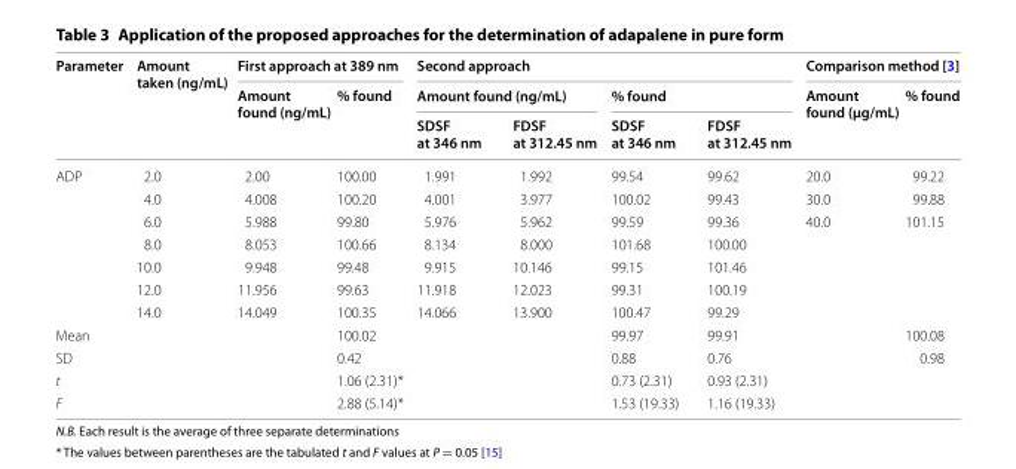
<table><thead><tr><td rowspan="3">Parameter</td><td rowspan="3">Amount taken (ng/mL)</td><td colspan="2">First approach at 389 nm</td><td colspan="4">Second approach</td><td colspan="2">Comparison method [3]</td></tr><tr><td rowspan="2">Amount found (ng/mL)</td><td rowspan="2">% found</td><td colspan="2">Amount found (ng/mL)</td><td colspan="2">% found</td><td rowspan="2">Amount found (µg/mL)</td><td rowspan="2">% found</td></tr><tr><td>SDSF at 346 nm</td><td>FDSF at 312.45 nm</td><td>SDSF at 346 nm</td><td>FDSF at 312.45 nm</td></tr></thead><tbody><tr><td rowspan="7">ADP</td><td>2.0</td><td>2.00</td><td>100.00</td><td>1.991</td><td>1.992</td><td>99.54</td><td>99.62</td><td>20.0</td><td>99.22</td></tr><tr><td>4.0</td><td>4.008</td><td>100.20</td><td>4.001</td><td>3.977</td><td>100.02</td><td>99.43</td><td>30.0</td><td>99.88</td></tr><tr><td>6.0</td><td>5.988</td><td>99.80</td><td>5.976</td><td>5.962</td><td>99.59</td><td>99.36</td><td>40.0</td><td>101.15</td></tr><tr><td>8.0</td><td>8.053</td><td>100.66</td><td>8.134</td><td>8.000</td><td>101.68</td><td>100.00</td><td></td><td></td></tr><tr><td>10.0</td><td>9.948</td><td>99.48</td><td>9.915</td><td>10.146</td><td>99.15</td><td>101.46</td><td></td><td></td></tr><tr><td>12.0</td><td>11.956</td><td>99.63</td><td>11.918</td><td>12.023</td><td>99.31</td><td>100.19</td><td></td><td></td></tr><tr><td>14.0</td><td>14.049</td><td>100.35</td><td>14.066</td><td>13.900</td><td>100.47</td><td>99.29</td><td></td><td></td></tr><tr><td>Mean</td><td></td><td></td><td>100.02</td><td></td><td></td><td>99.97</td><td>99.91</td><td></td><td>100.08</td></tr><tr><td>SD</td><td></td><td></td><td>0.42</td><td></td><td></td><td>0.88</td><td>0.76</td><td></td><td>0.98</td></tr><tr><td>t</td><td></td><td></td><td>1.06 (2.31)*</td><td></td><td></td><td>0.73 (2.31)</td><td>0.93 (2.31)</td><td></td><td></td></tr><tr><td>F</td><td></td><td></td><td>2.88 (5.14)*</td><td></td><td></td><td>1.53 (19.33)</td><td>1.16 (19.33)</td><td></td><td></td></tr></tbody></table>